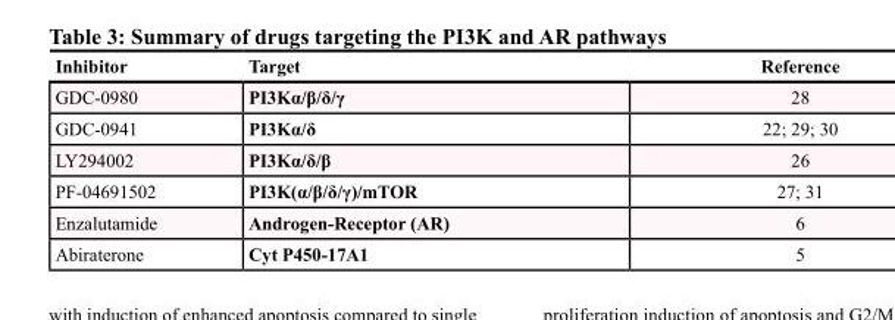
<table><thead><tr><td>Inhibitor</td><td>Target</td><td>Reference</td></tr></thead><tbody><tr><td>GDC-0980</td><td>PI3Kα/β/δ/γ</td><td>28</td></tr><tr><td>GDC-0941</td><td>PI3Kα/δ</td><td>22; 29; 30</td></tr><tr><td>LY294002</td><td>PI3Kα/δ/β</td><td>26</td></tr><tr><td>PF-04691502</td><td>PI3K(α/β/δ/γ)/mTOR</td><td>27; 31</td></tr><tr><td>Enzalutamide</td><td>Androgen-Receptor (AR)</td><td>6</td></tr><tr><td>Abiraterone</td><td>Cyt P450-17A1</td><td>5</td></tr></tbody></table>